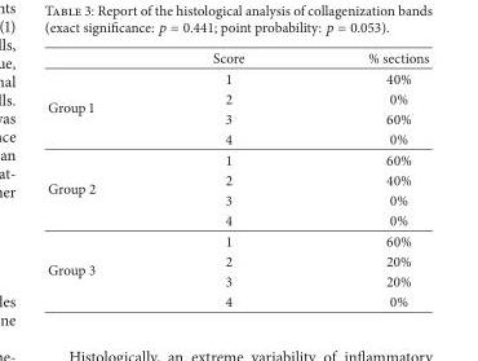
<table><thead><tr><td></td><td>Score</td><td>% sections</td></tr></thead><tbody><tr><td rowspan="4">Group 1</td><td>1</td><td>40%</td></tr><tr><td>2</td><td>0%</td></tr><tr><td>3</td><td>60%</td></tr><tr><td>4</td><td>0%</td></tr><tr><td rowspan="4">Group 2</td><td>1</td><td>60%</td></tr><tr><td>2</td><td>40%</td></tr><tr><td>3</td><td>0%</td></tr><tr><td>4</td><td>0%</td></tr><tr><td rowspan="4">Group 3</td><td>1</td><td>60%</td></tr><tr><td>2</td><td>20%</td></tr><tr><td>3</td><td>20%</td></tr><tr><td>4</td><td>0%</td></tr></tbody></table>